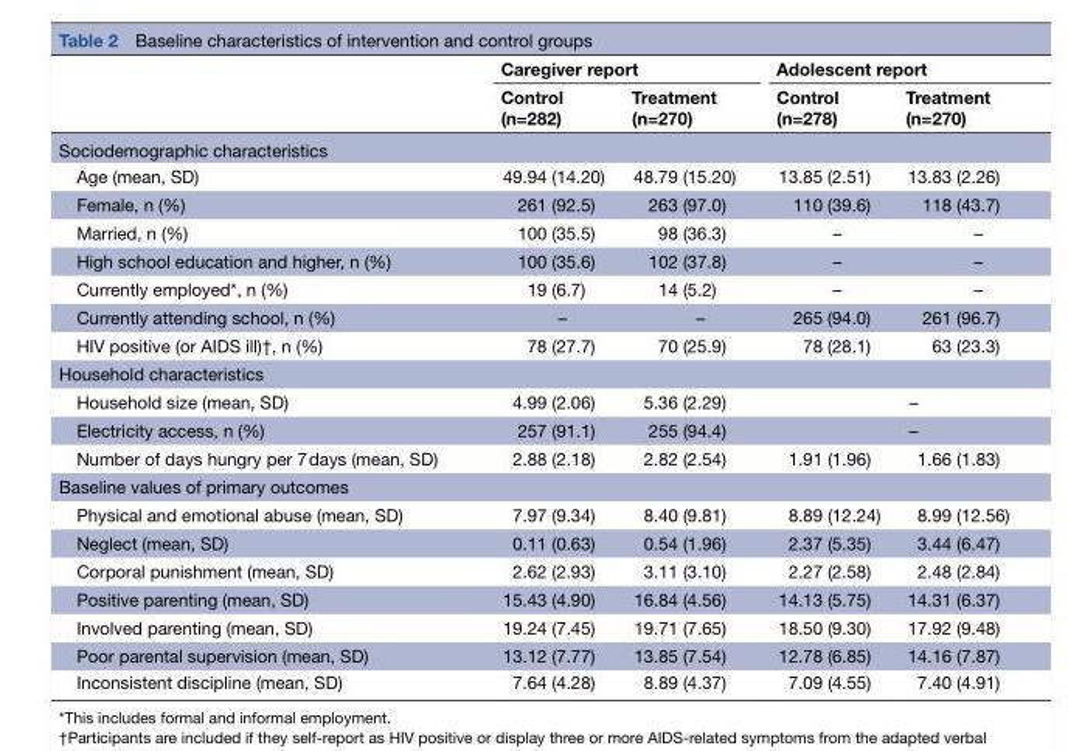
<table><thead><tr><td rowspan="2"></td><td colspan="2">Caregiver report</td><td colspan="2">Adolescent report</td></tr><tr><td>Control (n=282)</td><td>Treatment (n=270)</td><td>Control (n=278)</td><td>Treatment (n=270)</td></tr></thead><tbody><tr><td colspan="5">Sociodemographic characteristics</td></tr><tr><td>Age (mean, SD)</td><td>49.94 (14.20)</td><td>48.79 (15.20)</td><td>13.85 (2.51)</td><td>13.83 (2.26)</td></tr><tr><td>Female, n (%)</td><td>261 (92.5)</td><td>263 (97.0)</td><td>110 (39.6)</td><td>118 (43.7)</td></tr><tr><td>Married, n (%)</td><td>100 (35.5)</td><td>98 (36.3)</td><td>–</td><td>–</td></tr><tr><td>High school education and higher, n (%)</td><td>100 (35.6)</td><td>102 (37.8)</td><td>–</td><td>–</td></tr><tr><td>Currently employed*, n (%)</td><td>19 (6.7)</td><td>14 (5.2)</td><td>–</td><td>–</td></tr><tr><td>Currently attending school, n (%)</td><td>–</td><td>–</td><td>265 (94.0)</td><td>261 (96.7)</td></tr><tr><td>HIV positive (or AIDS ill)†, n (%)</td><td>78 (27.7)</td><td>70 (25.9)</td><td>78 (28.1)</td><td>63 (23.3)</td></tr><tr><td colspan="5">Household characteristics</td></tr><tr><td>Household size (mean, SD)</td><td>4.99 (2.06)</td><td>5.36 (2.29)</td><td colspan="2">–</td></tr><tr><td>Electricity access, n (%)</td><td>257 (91.1)</td><td>255 (94.4)</td><td colspan="2">–</td></tr><tr><td>Number of days hungry per 7 days (mean, SD)</td><td>2.88 (2.18)</td><td>2.82 (2.54)</td><td>1.91 (1.96)</td><td>1.66 (1.83)</td></tr><tr><td colspan="5">Baseline values of primary outcomes</td></tr><tr><td>Physical and emotional abuse (mean, SD)</td><td>7.97 (9.34)</td><td>8.40 (9.81)</td><td>8.89 (12.24)</td><td>8.99 (12.56)</td></tr><tr><td>Neglect (mean, SD)</td><td>0.11 (0.63)</td><td>0.54 (1.96)</td><td>2.37 (5.35)</td><td>3.44 (6.47)</td></tr><tr><td>Corporal punishment (mean, SD)</td><td>2.62 (2.93)</td><td>3.11 (3.10)</td><td>2.27 (2.58)</td><td>2.48 (2.84)</td></tr><tr><td>Positive parenting (mean, SD)</td><td>15.43 (4.90)</td><td>16.84 (4.56)</td><td>14.13 (5.75)</td><td>14.31 (6.37)</td></tr><tr><td>Involved parenting (mean, SD)</td><td>19.24 (7.45)</td><td>19.71 (7.65)</td><td>18.50 (9.30)</td><td>17.92 (9.48)</td></tr><tr><td>Poor parental supervision (mean, SD)</td><td>13.12 (7.77)</td><td>13.85 (7.54)</td><td>12.78 (6.85)</td><td>14.16 (7.87)</td></tr><tr><td>Inconsistent discipline (mean, SD)</td><td>7.64 (4.28)</td><td>8.89 (4.37)</td><td>7.09 (4.55)</td><td>7.40 (4.91)</td></tr></tbody></table>